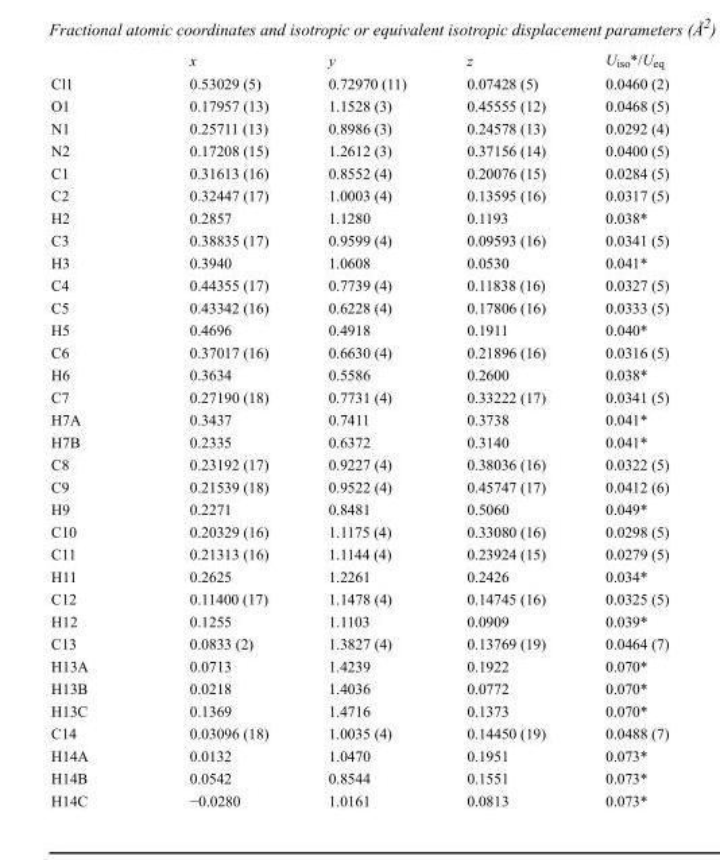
<table><thead><tr><td></td><td>x</td><td>y</td><td>z</td><td>U<sub>iso</sub>*/U<sub>eq</sub></td></tr></thead><tbody><tr><td>Cl1</td><td>0.53029 (5)</td><td>0.72970 (11)</td><td>0.07428 (5)</td><td>0.0460 (2)</td></tr><tr><td>O1</td><td>0.17957 (13)</td><td>1.1528 (3)</td><td>0.45555 (12)</td><td>0.0468 (5)</td></tr><tr><td>N1</td><td>0.25711 (13)</td><td>0.8986 (3)</td><td>0.24578 (13)</td><td>0.0292 (4)</td></tr><tr><td>N2</td><td>0.17208 (15)</td><td>1.2612 (3)</td><td>0.37156 (14)</td><td>0.0400 (5)</td></tr><tr><td>C1</td><td>0.31613 (16)</td><td>0.8552 (4)</td><td>0.20076 (15)</td><td>0.0284 (5)</td></tr><tr><td>C2</td><td>0.32447 (17)</td><td>1.0003 (4)</td><td>0.13595 (16)</td><td>0.0317 (5)</td></tr><tr><td>H2</td><td>0.2857</td><td>1.1280</td><td>0.1193</td><td>0.038*</td></tr><tr><td>C3</td><td>0.38835 (17)</td><td>0.9599 (4)</td><td>0.09593 (16)</td><td>0.0341 (5)</td></tr><tr><td>H3</td><td>0.3940</td><td>1.0608</td><td>0.0530</td><td>0.041*</td></tr><tr><td>C4</td><td>0.44355 (17)</td><td>0.7739 (4)</td><td>0.11838 (16)</td><td>0.0327 (5)</td></tr><tr><td>C5</td><td>0.43342 (16)</td><td>0.6228 (4)</td><td>0.17806 (16)</td><td>0.0333 (5)</td></tr><tr><td>H5</td><td>0.4696</td><td>0.4918</td><td>0.1911</td><td>0.040*</td></tr><tr><td>C6</td><td>0.37017 (16)</td><td>0.6630 (4)</td><td>0.21896 (16)</td><td>0.0316 (5)</td></tr><tr><td>H6</td><td>0.3634</td><td>0.5586</td><td>0.2600</td><td>0.038*</td></tr><tr><td>C7</td><td>0.27190 (18)</td><td>0.7731 (4)</td><td>0.33222 (17)</td><td>0.0341 (5)</td></tr><tr><td>H7A</td><td>0.3437</td><td>0.7411</td><td>0.3738</td><td>0.041*</td></tr><tr><td>H7B</td><td>0.2335</td><td>0.6372</td><td>0.3140</td><td>0.041*</td></tr><tr><td>C8</td><td>0.23192 (17)</td><td>0.9227 (4)</td><td>0.38036 (16)</td><td>0.0322 (5)</td></tr><tr><td>C9</td><td>0.21539 (18)</td><td>0.9522 (4)</td><td>0.45747 (17)</td><td>0.0412 (6)</td></tr><tr><td>H9</td><td>0.2271</td><td>0.8481</td><td>0.5060</td><td>0.049*</td></tr><tr><td>C10</td><td>0.20329 (16)</td><td>1.1175 (4)</td><td>0.33080 (16)</td><td>0.0298 (5)</td></tr><tr><td>C11</td><td>0.21313 (16)</td><td>1.1144 (4)</td><td>0.23924 (15)</td><td>0.0279 (5)</td></tr><tr><td>H11</td><td>0.2625</td><td>1.2261</td><td>0.2426</td><td>0.034*</td></tr><tr><td>C12</td><td>0.11400 (17)</td><td>1.1478 (4)</td><td>0.14745 (16)</td><td>0.0325 (5)</td></tr><tr><td>H12</td><td>0.1255</td><td>1.1103</td><td>0.0909</td><td>0.039*</td></tr><tr><td>C13</td><td>0.0833 (2)</td><td>1.3827 (4)</td><td>0.13769 (19)</td><td>0.0464 (7)</td></tr><tr><td>H13A</td><td>0.0713</td><td>1.4239</td><td>0.1922</td><td>0.070*</td></tr><tr><td>H13B</td><td>0.0218</td><td>1.4036</td><td>0.0772</td><td>0.070*</td></tr><tr><td>H13C</td><td>0.1369</td><td>1.4716</td><td>0.1373</td><td>0.070*</td></tr><tr><td>C14</td><td>0.03096 (18)</td><td>1.0035 (4)</td><td>0.14450 (19)</td><td>0.0488 (7)</td></tr><tr><td>H14A</td><td>0.0132</td><td>1.0470</td><td>0.1951</td><td>0.073*</td></tr><tr><td>H14B</td><td>0.0542</td><td>0.8544</td><td>0.1551</td><td>0.073*</td></tr><tr><td>H14C</td><td>−0.0280</td><td>1.0161</td><td>0.0813</td><td>0.073*</td></tr></tbody></table>